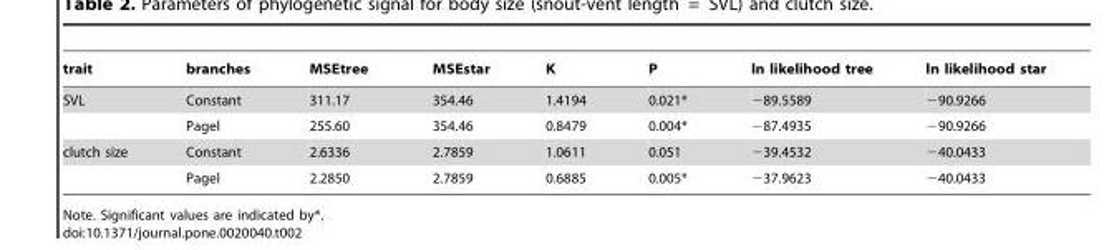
<table><thead><tr><td>trait</td><td>branches</td><td>MSEtree</td><td>MSEstar</td><td>K</td><td>P</td><td>ln likelihood tree</td><td>ln likelihood star</td></tr></thead><tbody><tr><td rowspan="2">SVL</td><td>Constant</td><td>311.17</td><td>354.46</td><td>1.4194</td><td>0.021*</td><td>−89.5589</td><td>−90.9266</td></tr><tr><td>Pagel</td><td>255.60</td><td>354.46</td><td>0.8479</td><td>0.004*</td><td>−87.4935</td><td>−90.9266</td></tr><tr><td rowspan="2">clutch size</td><td>Constant</td><td>2.6336</td><td>2.7859</td><td>1.0611</td><td>0.051</td><td>−39.4532</td><td>−40.0433</td></tr><tr><td>Pagel</td><td>2.2850</td><td>2.7859</td><td>0.6885</td><td>0.005*</td><td>−37.9623</td><td>−40.0433</td></tr></tbody></table>